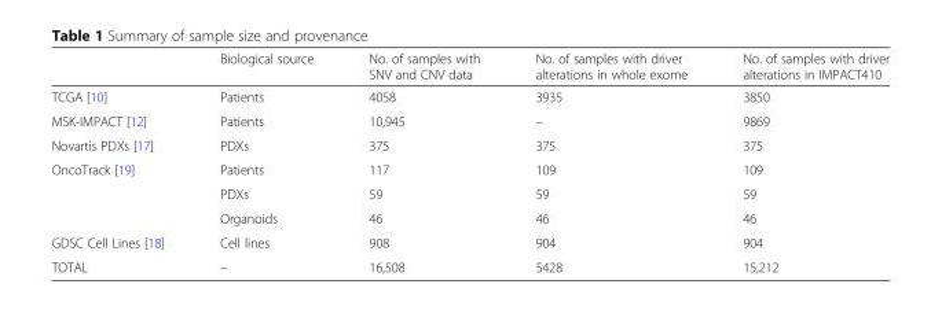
<table><thead><tr><td></td><td>Biological source</td><td>No. of samples with SNV and CNV data</td><td>No. of samples with driver alterations in whole exome</td><td>No. of samples with driver alterations in IMPACT410</td></tr></thead><tbody><tr><td>TCGA [10]</td><td>Patients</td><td>4058</td><td>3935</td><td>3850</td></tr><tr><td>MSK-IMPACT [12]</td><td>Patients</td><td>10,945</td><td>–</td><td>9869</td></tr><tr><td>Novartis PDXs [17]</td><td>PDXs</td><td>375</td><td>375</td><td>375</td></tr><tr><td rowspan="3">OncoTrack [19]</td><td>Patients</td><td>117</td><td>109</td><td>109</td></tr><tr><td>PDXs</td><td>59</td><td>59</td><td>59</td></tr><tr><td>Organoids</td><td>46</td><td>46</td><td>46</td></tr><tr><td>GDSC Cell Lines [18]</td><td>Cell lines</td><td>908</td><td>904</td><td>904</td></tr><tr><td>TOTAL</td><td>–</td><td>16,508</td><td>5428</td><td>15,212</td></tr></tbody></table>